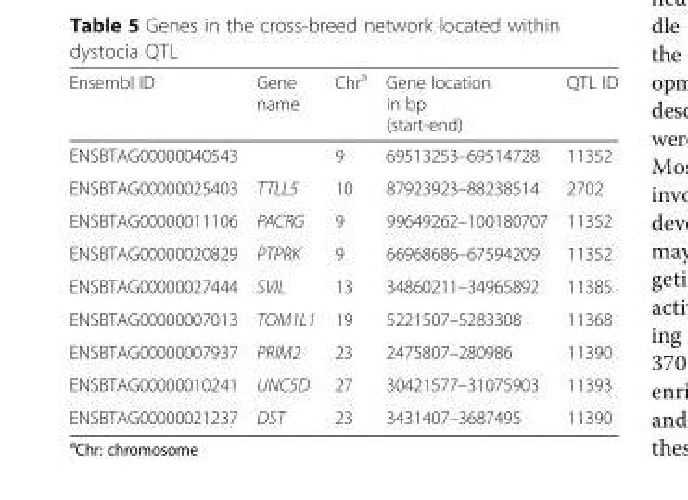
<table><thead><tr><td>Ensembl ID</td><td>Gene name</td><td>Chr<sup>a</sup></td><td>Gene location in bp (start-end)</td><td>QTL ID</td></tr></thead><tbody><tr><td>ENSBTAG00000040543</td><td></td><td>9</td><td>69513253–69514728</td><td>11352</td></tr><tr><td>ENSBTAG00000025403</td><td>TTLL5</td><td>10</td><td>87923923–88238514</td><td>2702</td></tr><tr><td>ENSBTAG00000011106</td><td>PACRG</td><td>9</td><td>99649262–100180707</td><td>11352</td></tr><tr><td>ENSBTAG00000020829</td><td>PTPRK</td><td>9</td><td>66968686–67594209</td><td>11352</td></tr><tr><td>ENSBTAG00000027444</td><td>SVIL</td><td>13</td><td>34860211–34965892</td><td>11385</td></tr><tr><td>ENSBTAG00000007013</td><td>TOM1L1</td><td>19</td><td>5221507–5283308</td><td>11368</td></tr><tr><td>ENSBTAG00000007937</td><td>PRIM2</td><td>23</td><td>2475807–280986</td><td>11390</td></tr><tr><td>ENSBTAG00000010241</td><td>UNC5D</td><td>27</td><td>30421577–31075903</td><td>11393</td></tr><tr><td>ENSBTAG00000021237</td><td>DST</td><td>23</td><td>3431407–3687495</td><td>11390</td></tr></tbody></table>